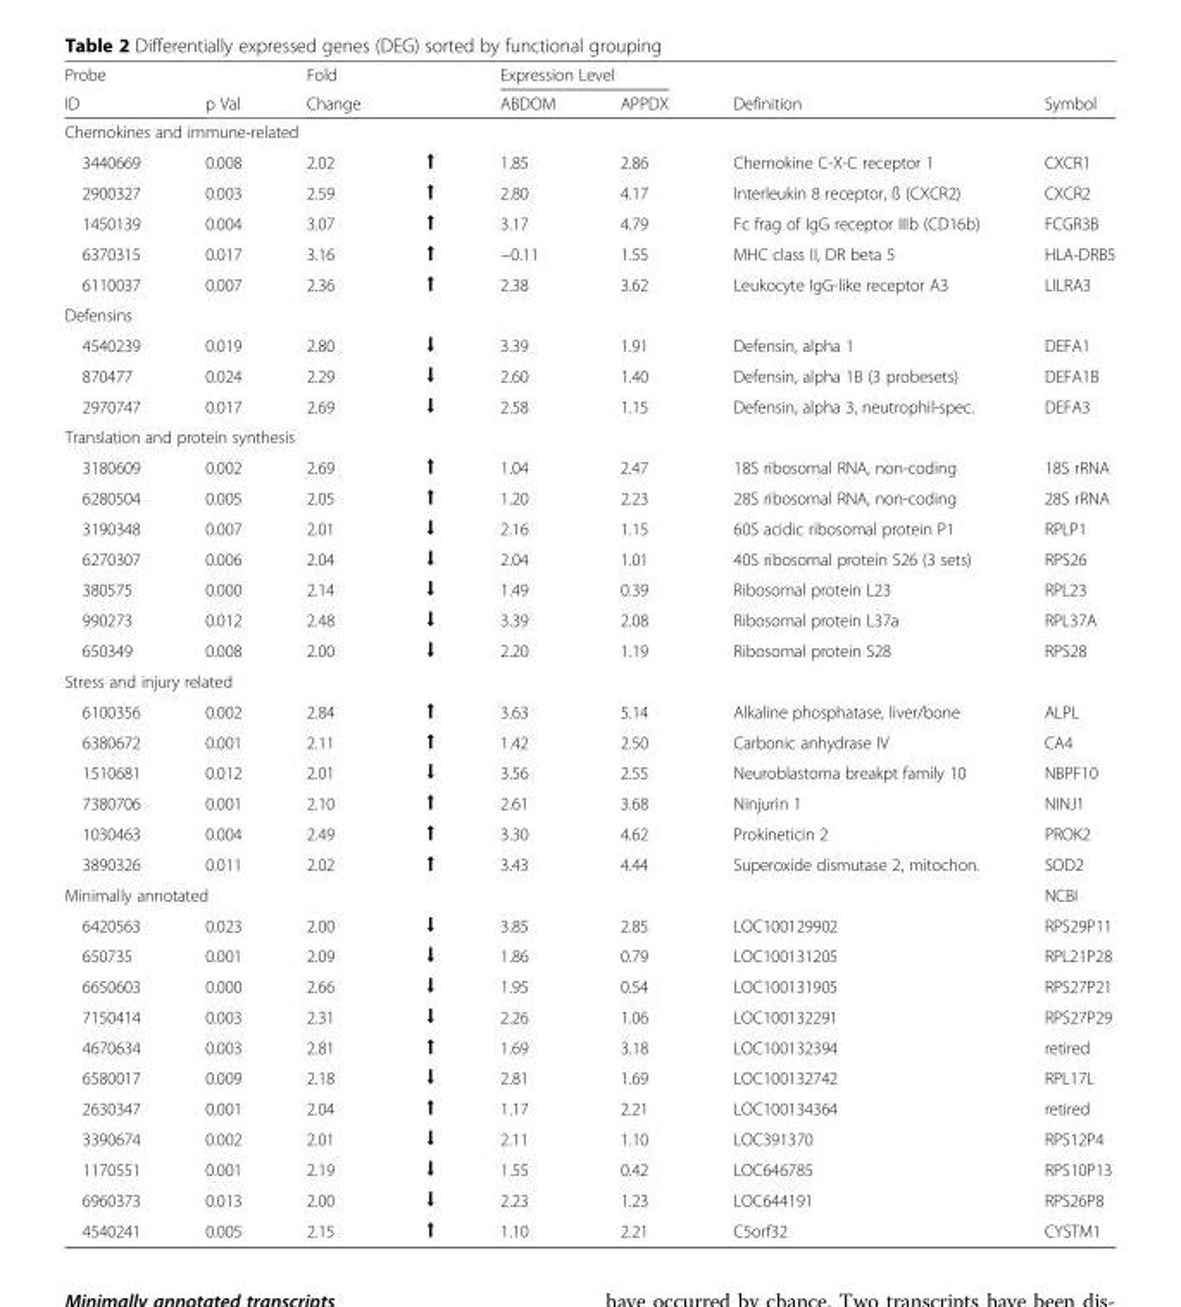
<table><thead><tr><td rowspan="2">Probe ID</td><td rowspan="2">p Val</td><td rowspan="2">Fold Change</td><td rowspan="2"></td><td colspan="2">Expression Level</td><td rowspan="2">Definition</td><td rowspan="2">Symbol</td></tr><tr><td>ABDOM</td><td>APPDX</td></tr></thead><tbody><tr><td colspan="8">Chemokines and immune-related</td></tr><tr><td>3440669</td><td>0.008</td><td>2.02</td><td>⬆</td><td>1.85</td><td>2.86</td><td>Chemokine C-X-C receptor 1</td><td>CXCR1</td></tr><tr><td>2900327</td><td>0.003</td><td>2.59</td><td>⬆</td><td>2.80</td><td>4.17</td><td>Interleukin 8 receptor, ß (CXCR2)</td><td>CXCR2</td></tr><tr><td>1450139</td><td>0.004</td><td>3.07</td><td>⬆</td><td>3.17</td><td>4.79</td><td>Fc frag of IgG receptor IIIb (CD16b)</td><td>FCGR3B</td></tr><tr><td>6370315</td><td>0.017</td><td>3.16</td><td>⬆</td><td>−0.11</td><td>1.55</td><td>MHC class II, DR beta 5</td><td>HLA-DRB5</td></tr><tr><td>6110037</td><td>0.007</td><td>2.36</td><td>⬆</td><td>2.38</td><td>3.62</td><td>Leukocyte IgG-like receptor A3</td><td>LILRA3</td></tr><tr><td colspan="8">Defensins</td></tr><tr><td>4540239</td><td>0.019</td><td>2.80</td><td>⬇</td><td>3.39</td><td>1.91</td><td>Defensin, alpha 1</td><td>DEFA1</td></tr><tr><td>870477</td><td>0.024</td><td>2.29</td><td>⬇</td><td>2.60</td><td>1.40</td><td>Defensin, alpha 1B (3 probesets)</td><td>DEFA1B</td></tr><tr><td>2970747</td><td>0.017</td><td>2.69</td><td>⬇</td><td>2.58</td><td>1.15</td><td>Defensin, alpha 3, neutrophil-spec.</td><td>DEFA3</td></tr><tr><td colspan="8">Translation and protein synthesis</td></tr><tr><td>3180609</td><td>0.002</td><td>2.69</td><td>⬆</td><td>1.04</td><td>2.47</td><td>18S ribosomal RNA, non-coding</td><td>18S rRNA</td></tr><tr><td>6280504</td><td>0.005</td><td>2.05</td><td>⬆</td><td>1.20</td><td>2.23</td><td>28S ribosomal RNA, non-coding</td><td>28S rRNA</td></tr><tr><td>3190348</td><td>0.007</td><td>2.01</td><td>⬇</td><td>2.16</td><td>1.15</td><td>60S acidic ribosomal protein P1</td><td>RPLP1</td></tr><tr><td>6270307</td><td>0.006</td><td>2.04</td><td>⬇</td><td>2.04</td><td>1.01</td><td>40S ribosomal protein S26 (3 sets)</td><td>RPS26</td></tr><tr><td>380575</td><td>0.000</td><td>2.14</td><td>⬇</td><td>1.49</td><td>0.39</td><td>Ribosomal protein L23</td><td>RPL23</td></tr><tr><td>990273</td><td>0.012</td><td>2.48</td><td>⬇</td><td>3.39</td><td>2.08</td><td>Ribosomal protein L37a</td><td>RPL37A</td></tr><tr><td>650349</td><td>0.008</td><td>2.00</td><td>⬇</td><td>2.20</td><td>1.19</td><td>Ribosomal protein S28</td><td>RPS28</td></tr><tr><td colspan="8">Stress and injury related</td></tr><tr><td>6100356</td><td>0.002</td><td>2.84</td><td>⬆</td><td>3.63</td><td>5.14</td><td>Alkaline phosphatase, liver/bone</td><td>ALPL</td></tr><tr><td>6380672</td><td>0.001</td><td>2.11</td><td>⬆</td><td>1.42</td><td>2.50</td><td>Carbonic anhydrase IV</td><td>CA4</td></tr><tr><td>1510681</td><td>0.012</td><td>2.01</td><td>⬇</td><td>3.56</td><td>2.55</td><td>Neuroblastoma breakpt family 10</td><td>NBPF10</td></tr><tr><td>7380706</td><td>0.001</td><td>2.10</td><td>⬆</td><td>2.61</td><td>3.68</td><td>Ninjurin 1</td><td>NINJ1</td></tr><tr><td>1030463</td><td>0.004</td><td>2.49</td><td>⬆</td><td>3.30</td><td>4.62</td><td>Prokineticin 2</td><td>PROK2</td></tr><tr><td>3890326</td><td>0.011</td><td>2.02</td><td>⬆</td><td>3.43</td><td>4.44</td><td>Superoxide dismutase 2, mitochon.</td><td>SOD2</td></tr><tr><td colspan="3">Minimally annotated</td><td></td><td></td><td></td><td></td><td>NCBI</td></tr><tr><td>6420563</td><td>0.023</td><td>2.00</td><td>⬇</td><td>3.85</td><td>2.85</td><td>LOC100129902</td><td>RPS29P11</td></tr><tr><td>650735</td><td>0.001</td><td>2.09</td><td>⬇</td><td>1.86</td><td>0.79</td><td>LOC100131205</td><td>RPL21P28</td></tr><tr><td>6650603</td><td>0.000</td><td>2.66</td><td>⬇</td><td>1.95</td><td>0.54</td><td>LOC100131905</td><td>RPS27P21</td></tr><tr><td>7150414</td><td>0.003</td><td>2.31</td><td>⬇</td><td>2.26</td><td>1.06</td><td>LOC100132291</td><td>RPS27P29</td></tr><tr><td>4670634</td><td>0.003</td><td>2.81</td><td>⬆</td><td>1.69</td><td>3.18</td><td>LOC100132394</td><td>retired</td></tr><tr><td>6580017</td><td>0.009</td><td>2.18</td><td>⬇</td><td>2.81</td><td>1.69</td><td>LOC100132742</td><td>RPL17L</td></tr><tr><td>2630347</td><td>0.001</td><td>2.04</td><td>⬆</td><td>1.17</td><td>2.21</td><td>LOC100134364</td><td>retired</td></tr><tr><td>3390674</td><td>0.002</td><td>2.01</td><td>⬇</td><td>2.11</td><td>1.10</td><td>LOC391370</td><td>RPS12P4</td></tr><tr><td>1170551</td><td>0.001</td><td>2.19</td><td>⬇</td><td>1.55</td><td>0.42</td><td>LOC646785</td><td>RPS10P13</td></tr><tr><td>6960373</td><td>0.013</td><td>2.00</td><td>⬇</td><td>2.23</td><td>1.23</td><td>LOC644191</td><td>RPS26P8</td></tr><tr><td>4540241</td><td>0.005</td><td>2.15</td><td>⬆</td><td>1.10</td><td>2.21</td><td>C5orf32</td><td>CYSTM1</td></tr></tbody></table>